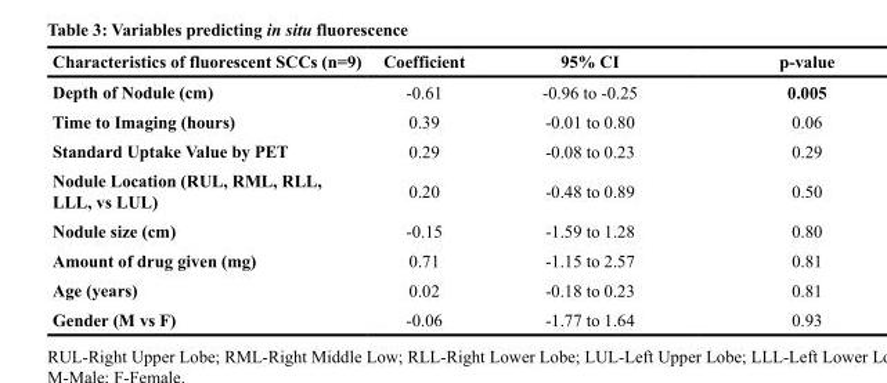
<table><thead><tr><td>Characteristics of fluorescent SCCs (n=9)</td><td>Coefficient</td><td>95% CI</td><td>p-value</td></tr></thead><tbody><tr><td>Depth of Nodule (cm)</td><td>-0.61</td><td>-0.96 to -0.25</td><td>0.005</td></tr><tr><td>Time to Imaging (hours)</td><td>0.39</td><td>-0.01 to 0.80</td><td>0.06</td></tr><tr><td>Standard Uptake Value by PET</td><td>0.29</td><td>-0.08 to 0.23</td><td>0.29</td></tr><tr><td>Nodule Location (RUL, RML, RLL, LLL, vs LUL)</td><td>0.20</td><td>-0.48 to 0.89</td><td>0.50</td></tr><tr><td>Nodule size (cm)</td><td>-0.15</td><td>-1.59 to 1.28</td><td>0.80</td></tr><tr><td>Amount of drug given (mg)</td><td>0.71</td><td>-1.15 to 2.57</td><td>0.81</td></tr><tr><td>Age (years)</td><td>0.02</td><td>-0.18 to 0.23</td><td>0.81</td></tr><tr><td>Gender (M vs F)</td><td>-0.06</td><td>-1.77 to 1.64</td><td>0.93</td></tr></tbody></table>